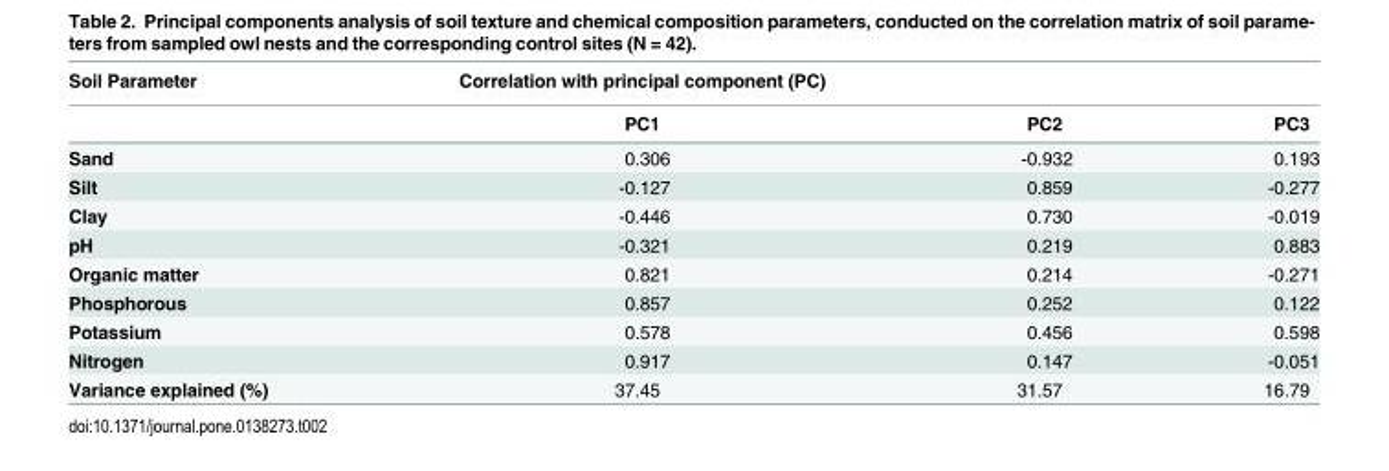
<table><thead><tr><td rowspan="2">Soil Parameter</td><td colspan="3">Correlation with principal component (PC)</td></tr><tr><td>PC1</td><td>PC2</td><td>PC3</td></tr></thead><tbody><tr><td>Sand</td><td>0.306</td><td>-0.932</td><td>0.193</td></tr><tr><td>Silt</td><td>-0.127</td><td>0.859</td><td>-0.277</td></tr><tr><td>Clay</td><td>-0.446</td><td>0.730</td><td>-0.019</td></tr><tr><td>pH</td><td>-0.321</td><td>0.219</td><td>0.883</td></tr><tr><td>Organic matter</td><td>0.821</td><td>0.214</td><td>-0.271</td></tr><tr><td>Phosphorous</td><td>0.857</td><td>0.252</td><td>0.122</td></tr><tr><td>Potassium</td><td>0.578</td><td>0.456</td><td>0.598</td></tr><tr><td>Nitrogen</td><td>0.917</td><td>0.147</td><td>-0.051</td></tr><tr><td>Variance explained (%)</td><td>37.45</td><td>31.57</td><td>16.79</td></tr></tbody></table>